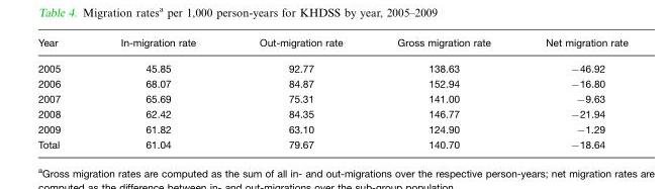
<table><thead><tr><td>Year</td><td>In-migration rate</td><td>Out-migration rate</td><td>Gross migration rate</td><td>Net migration rate</td></tr></thead><tbody><tr><td>2005</td><td>45.85</td><td>92.77</td><td>138.63</td><td>−46.92</td></tr><tr><td>2006</td><td>68.07</td><td>84.87</td><td>152.94</td><td>−16.80</td></tr><tr><td>2007</td><td>65.69</td><td>75.31</td><td>141.00</td><td>−9.63</td></tr><tr><td>2008</td><td>62.42</td><td>84.35</td><td>146.77</td><td>−21.94</td></tr><tr><td>2009</td><td>61.82</td><td>63.10</td><td>124.90</td><td>−1.29</td></tr><tr><td>Total</td><td>61.04</td><td>79.67</td><td>140.70</td><td>−18.64</td></tr></tbody></table>